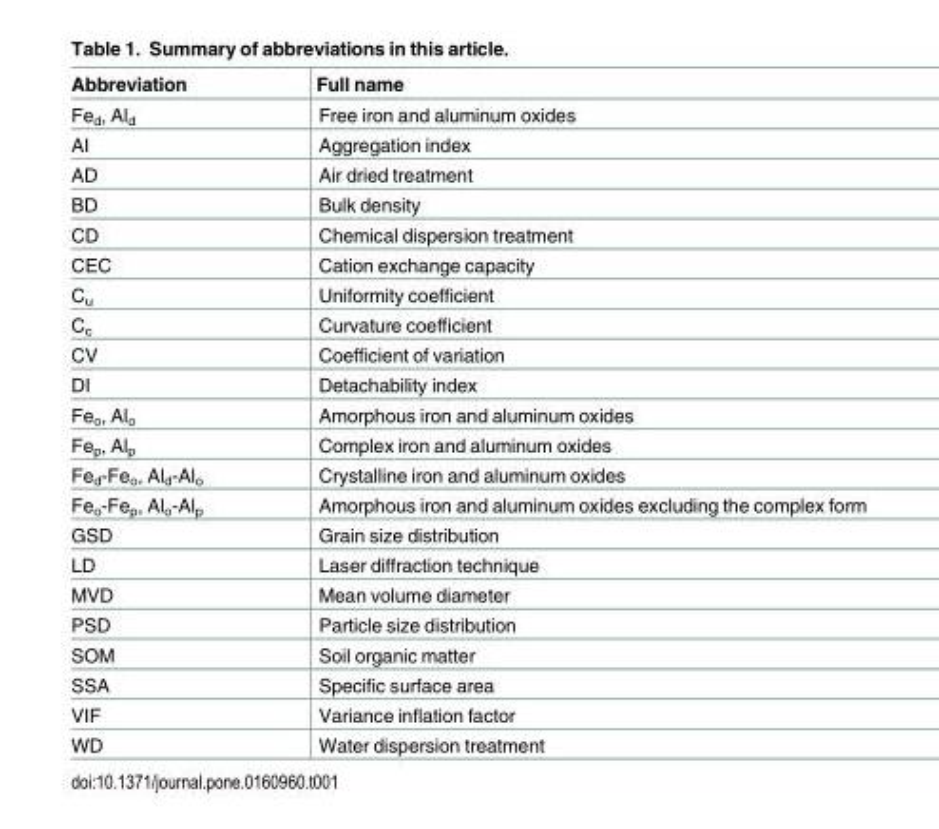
<table><thead><tr><td>Abbreviation</td><td>Full name</td></tr></thead><tbody><tr><td>Fe<sub>d</sub>, Al<sub>d</sub></td><td>Free iron and aluminum oxides</td></tr><tr><td>AI</td><td>Aggregation index</td></tr><tr><td>AD</td><td>Air dried treatment</td></tr><tr><td>BD</td><td>Bulk density</td></tr><tr><td>CD</td><td>Chemical dispersion treatment</td></tr><tr><td>CEC</td><td>Cation exchange capacity</td></tr><tr><td>C<sub>u</sub></td><td>Uniformity coefficient</td></tr><tr><td>C<sub>c</sub></td><td>Curvature coefficient</td></tr><tr><td>CV</td><td>Coefficient of variation</td></tr><tr><td>DI</td><td>Detachability index</td></tr><tr><td>Fe<sub>o</sub>, Al<sub>o</sub></td><td>Amorphous iron and aluminum oxides</td></tr><tr><td>Fe<sub>p</sub>, Al<sub>p</sub></td><td>Complex iron and aluminum oxides</td></tr><tr><td>Fe<sub>d</sub>-Fe<sub>o</sub>, Al<sub>d</sub>-Al<sub>o</sub></td><td>Crystalline iron and aluminum oxides</td></tr><tr><td>Fe<sub>o</sub>-Fe<sub>p</sub>, Al<sub>o</sub>-Al<sub>p</sub></td><td>Amorphous iron and aluminum oxides excluding the complex form</td></tr><tr><td>GSD</td><td>Grain size distribution</td></tr><tr><td>LD</td><td>Laser diffraction technique</td></tr><tr><td>MVD</td><td>Mean volume diameter</td></tr><tr><td>PSD</td><td>Particle size distribution</td></tr><tr><td>SOM</td><td>Soil organic matter</td></tr><tr><td>SSA</td><td>Specific surface area</td></tr><tr><td>VIF</td><td>Variance inflation factor</td></tr><tr><td>WD</td><td>Water dispersion treatment</td></tr></tbody></table>